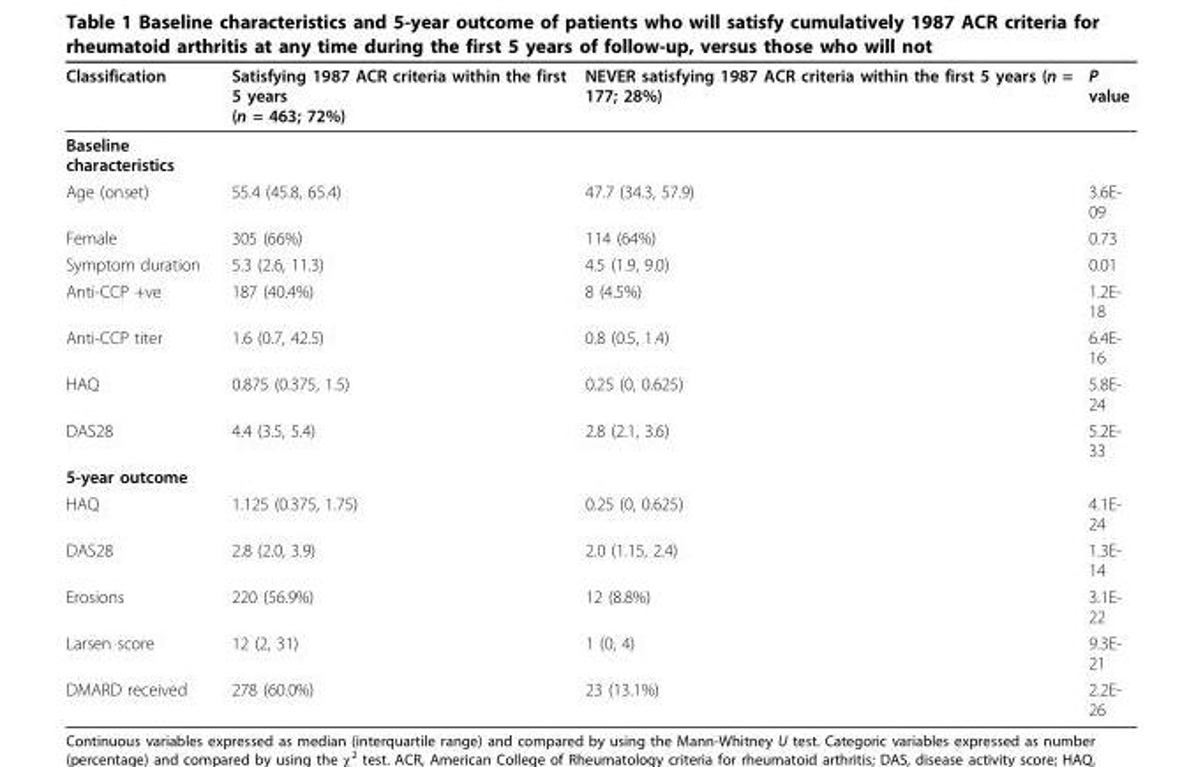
<table><thead><tr><td>Classification</td><td>Satisfying 1987 ACR criteria within the first 5 years (n = 463; 72%)</td><td>NEVER satisfying 1987 ACR criteria within the first 5 years (n = 177; 28%)</td><td>P value</td></tr></thead><tbody><tr><td colspan="4">Baseline characteristics</td></tr><tr><td>Age (onset)</td><td>55.4 (45.8, 65.4)</td><td>47.7 (34.3, 57.9)</td><td>3.6E- 09</td></tr><tr><td>Female</td><td>305 (66%)</td><td>114 (64%)</td><td>0.73</td></tr><tr><td>Symptom duration</td><td>5.3 (2.6, 11.3)</td><td>4.5 (1.9, 9.0)</td><td>0.01</td></tr><tr><td>Anti-CCP +ve</td><td>187 (40.4%)</td><td>8 (4.5%)</td><td>1.2E- 18</td></tr><tr><td>Anti-CCP titer</td><td>1.6 (0.7, 42.5)</td><td>0.8 (0.5, 1.4)</td><td>6.4E- 16</td></tr><tr><td>HAQ</td><td>0.875 (0.375, 1.5)</td><td>0.25 (0, 0.625)</td><td>5.8E- 24</td></tr><tr><td>DAS28</td><td>4.4 (3.5, 5.4)</td><td>2.8 (2.1, 3.6)</td><td>5.2E- 33</td></tr><tr><td colspan="4">5-year outcome</td></tr><tr><td>HAQ</td><td>1.125 (0.375, 1.75)</td><td>0.25 (0, 0.625)</td><td>4.1E- 24</td></tr><tr><td>DAS28</td><td>2.8 (2.0, 3.9)</td><td>2.0 (1.15, 2.4)</td><td>1.3E- 14</td></tr><tr><td>Erosions</td><td>220 (56.9%)</td><td>12 (8.8%)</td><td>3.1E- 22</td></tr><tr><td>Larsen score</td><td>12 (2, 31)</td><td>1 (0, 4)</td><td>9.3E- 21</td></tr><tr><td>DMARD received</td><td>278 (60.0%)</td><td>23 (13.1%)</td><td>2.2E-</td></tr></tbody></table>